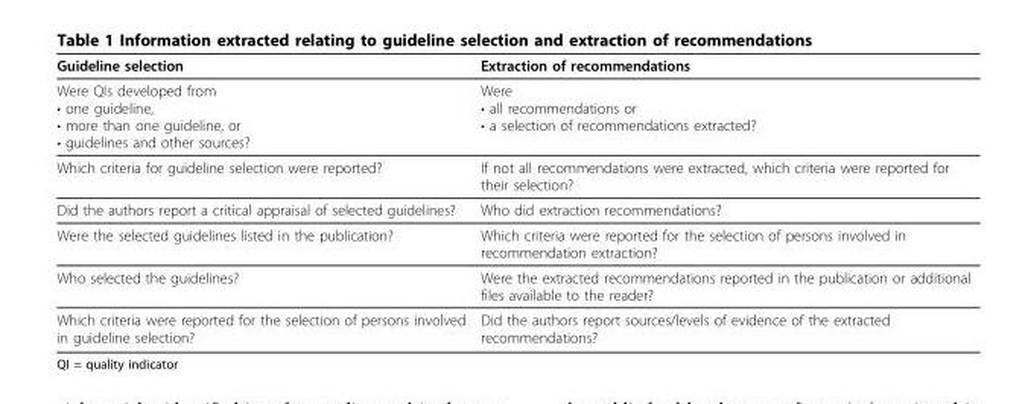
<table><thead><tr><td>Guideline selection</td><td>Extraction of recommendations</td></tr></thead><tbody><tr><td>Were QIs developed from • one guideline, • more than one guideline, or • guidelines and other sources?</td><td>Were • all recommendations or • a selection of recommendations extracted?</td></tr><tr><td>Which criteria for guideline selection were reported?</td><td>If not all recommendations were extracted, which criteria were reported for their selection?</td></tr><tr><td>Did the authors report a critical appraisal of selected guidelines?</td><td>Who did extraction recommendations?</td></tr><tr><td>Were the selected guidelines listed in the publication?</td><td>Which criteria were reported for the selection of persons involved in recommendation extraction?</td></tr><tr><td>Who selected the guidelines?</td><td>Were the extracted recommendations reported in the publication or additional files available to the reader?</td></tr><tr><td>Which criteria were reported for the selection of persons involved in guideline selection?</td><td>Did the authors report sources/levels of evidence of the extracted recommendations?</td></tr></tbody></table>